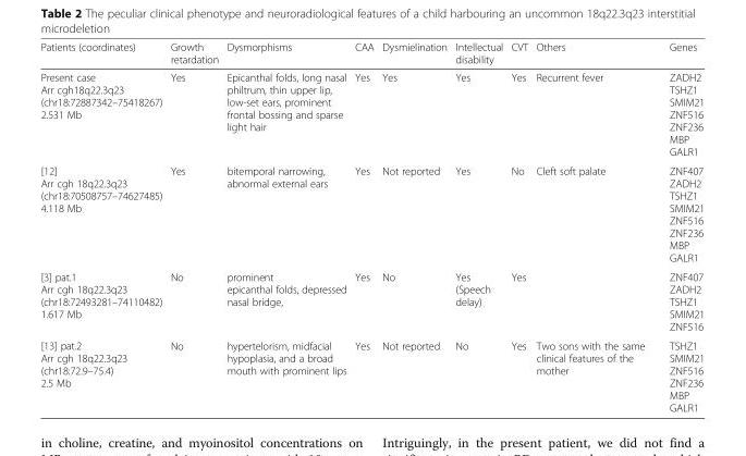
<table><thead><tr><td>Patients (coordinates)</td><td>Growth retardation</td><td>Dysmorphisms</td><td>CAA</td><td>Dysmielination</td><td>Intellectual disability</td><td>CVT</td><td>Others</td><td>Genes</td></tr></thead><tbody><tr><td>Present case Arr cgh18q22.3q23 (chr18:72887342–75418267) 2.531 Mb</td><td>Yes</td><td>Epicanthal folds, long nasal philtrum, thin upper lip, low-set ears, prominent frontal bossing and sparse light hair</td><td>Yes</td><td>Yes</td><td>Yes</td><td>Yes</td><td>Recurrent fever</td><td>ZADH2 TSHZ1 SMIM21 ZNF516 ZNF236 MBP GALR1</td></tr><tr><td>[12] Arr cgh 18q22.3q23 (chr18:70508757–74627485) 4.118 Mb</td><td>Yes</td><td>bitemporal narrowing, abnormal external ears</td><td>Yes</td><td>Not reported</td><td>Yes</td><td>No</td><td>Cleft soft palate</td><td>ZNF407 ZADH2 TSHZ1 SMIM21 ZNF516 ZNF236 MBP GALR1</td></tr><tr><td>[3] pat.1 Arr cgh 18q22.3q23 (chr18:72493281–74110482) 1.617 Mb</td><td>No</td><td>prominent epicanthal folds, depressed nasal bridge,</td><td>Yes</td><td>No</td><td>Yes (Speech delay)</td><td>Yes</td><td></td><td>ZNF407 ZADH2 TSHZ1 SMIM21 ZNF516</td></tr><tr><td>[13] pat.2 Arr cgh 18q22.3q23 (chr18:72.9–75.4) 2.5 Mb</td><td>No</td><td>hypertelorism, midfacial hypoplasia, and a broad mouth with prominent lips</td><td>Yes</td><td>Not reported</td><td>No</td><td>Yes</td><td>Two sons with the same clinical features of the mother</td><td>TSHZ1 SMIM21 ZNF516 ZNF236 MBP GALR1</td></tr></tbody></table>